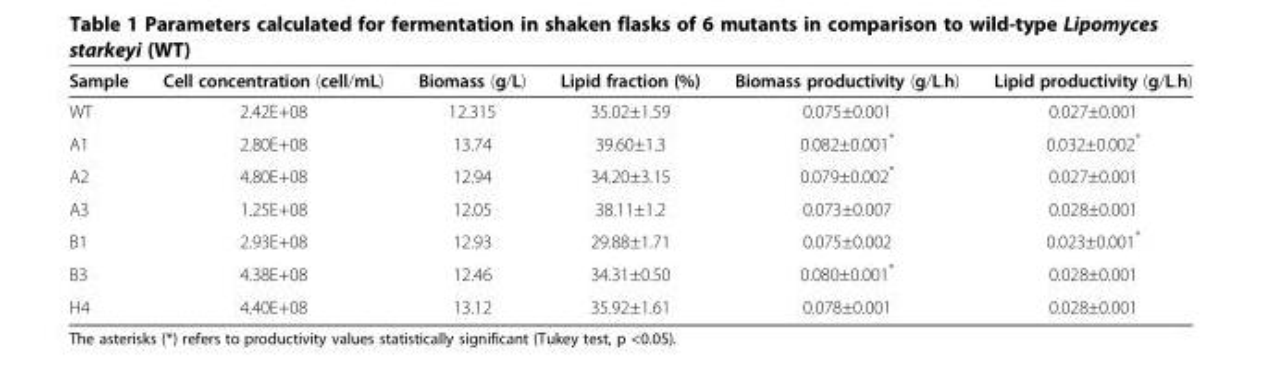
<table><thead><tr><td>Sample</td><td>Cell concentration (cell/mL)</td><td>Biomass (g/L)</td><td>Lipid fraction (%)</td><td>Biomass productivity (g/L.h)</td><td>Lipid productivity (g/L.h)</td></tr></thead><tbody><tr><td>WT</td><td>2.42E+08</td><td>12.315</td><td>35.02±1.59</td><td>0.075±0.001</td><td>0.027±0.001</td></tr><tr><td>A1</td><td>2.80E+08</td><td>13.74</td><td>39.60±1.3</td><td>0.082±0.001*</td><td>0.032±0.002*</td></tr><tr><td>A2</td><td>4.80E+08</td><td>12.94</td><td>34.20±3.15</td><td>0.079±0.002*</td><td>0.027±0.001</td></tr><tr><td>A3</td><td>1.25E+08</td><td>12.05</td><td>38.11±1.2</td><td>0.073±0.007</td><td>0.028±0.001</td></tr><tr><td>B1</td><td>2.93E+08</td><td>12.93</td><td>29.88±1.71</td><td>0.075±0.002</td><td>0.023±0.001*</td></tr><tr><td>B3</td><td>4.38E+08</td><td>12.46</td><td>34.31±0.50</td><td>0.080±0.001*</td><td>0.028±0.001</td></tr><tr><td>H4</td><td>4.40E+08</td><td>13.12</td><td>35.92±1.61</td><td>0.078±0.001</td><td>0.028±0.001</td></tr></tbody></table>